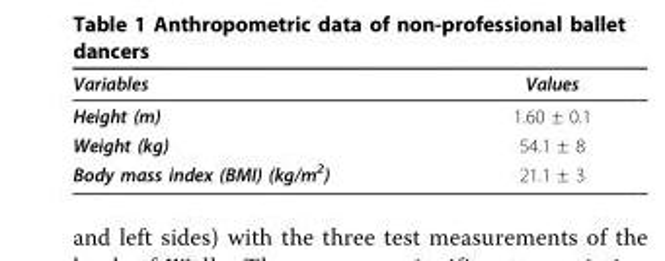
<table><thead><tr><td>Variables</td><td>Values</td></tr></thead><tbody><tr><td>Height (m)</td><td>1.60 ± 0.1</td></tr><tr><td>Weight (kg)</td><td>54.1 ± 8</td></tr><tr><td>Body mass index (BMI) (kg/m<sup>2</sup>)</td><td>21.1 ± 3</td></tr></tbody></table>